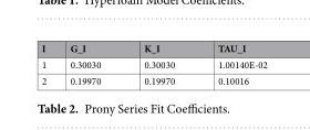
<table><thead><tr><td>I</td><td>G_I</td><td>K_I</td><td>TAU_I</td></tr></thead><tbody><tr><td>1</td><td>0.30030</td><td>0.30030</td><td>1.00140E-02</td></tr><tr><td>2</td><td>0.19970</td><td>0.19970</td><td>0.10016</td></tr></tbody></table>